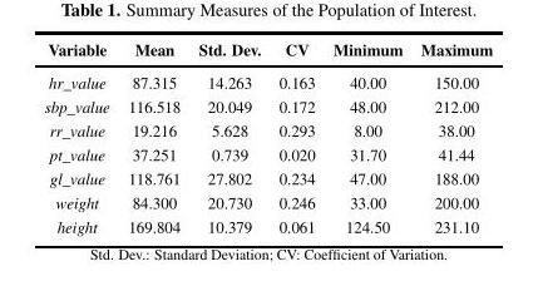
<table><thead><tr><td>Variable</td><td>Mean</td><td>Std. Dev.</td><td>CV</td><td>Minimum</td><td>Maximum</td></tr></thead><tbody><tr><td>hr_value</td><td>87.315</td><td>14.263</td><td>0.163</td><td>40.00</td><td>150.00</td></tr><tr><td>sbp_value</td><td>116.518</td><td>20.049</td><td>0.172</td><td>48.00</td><td>212.00</td></tr><tr><td>rr_value</td><td>19.216</td><td>5.628</td><td>0.293</td><td>8.00</td><td>38.00</td></tr><tr><td>pt_value</td><td>37.251</td><td>0.739</td><td>0.020</td><td>31.70</td><td>41.44</td></tr><tr><td>gl_value</td><td>118.761</td><td>27.802</td><td>0.234</td><td>47.00</td><td>188.00</td></tr><tr><td>weight</td><td>84.300</td><td>20.730</td><td>0.246</td><td>33.00</td><td>200.00</td></tr><tr><td>height</td><td>169.804</td><td>10.379</td><td>0.061</td><td>124.50</td><td>231.10</td></tr></tbody></table>